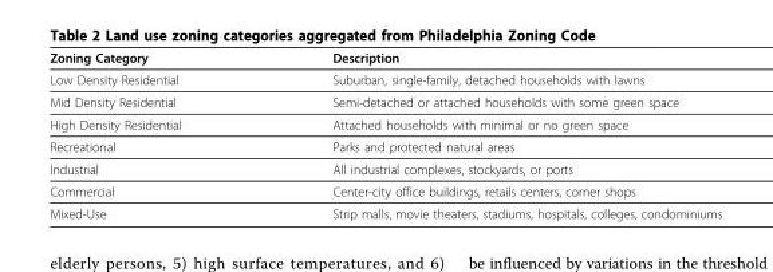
<table><thead><tr><td>Zoning Category</td><td>Description</td></tr></thead><tbody><tr><td>Low Density Residential</td><td>Suburban, single-family, detached households with lawns</td></tr><tr><td>Mid Density Residential</td><td>Semi-detached or attached households with some green space</td></tr><tr><td>High Density Residential</td><td>Attached households with minimal or no green space</td></tr><tr><td>Recreational</td><td>Parks and protected natural areas</td></tr><tr><td>Industrial</td><td>All industrial complexes, stockyards, or ports</td></tr><tr><td>Commercial</td><td>Center-city office buildings, retails centers, corner shops</td></tr><tr><td>Mixed-Use</td><td>Strip malls, movie theaters, stadiums, hospitals, colleges, condominiums</td></tr></tbody></table>